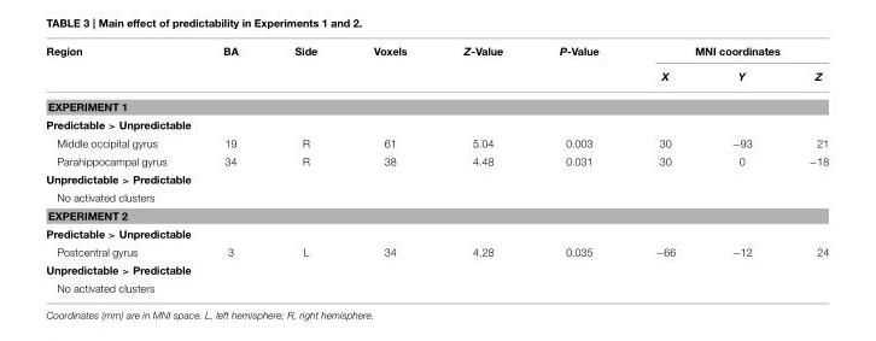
<table><thead><tr><td rowspan="2">Region</td><td rowspan="2">BA</td><td rowspan="2">Side</td><td rowspan="2">Voxels</td><td rowspan="2">Z-Value</td><td rowspan="2">P-Value</td><td colspan="3">MNI coordinates</td></tr><tr><td>X</td><td>Y</td><td>Z</td></tr></thead><tbody><tr><td colspan="9">EXPERIMENT 1</td></tr><tr><td colspan="9">Predictable &gt; Unpredictable</td></tr><tr><td>Middle occipital gyrus</td><td>19</td><td>R</td><td>61</td><td>5.04</td><td>0.003</td><td>30</td><td>−93</td><td>21</td></tr><tr><td>Parahippocampal gyrus</td><td>34</td><td>R</td><td>38</td><td>4.48</td><td>0.031</td><td>30</td><td>0</td><td>−18</td></tr><tr><td colspan="9">Unpredictable &gt; Predictable</td></tr><tr><td colspan="9">No activated clusters</td></tr><tr><td colspan="9">EXPERIMENT 2</td></tr><tr><td colspan="9">Predictable &gt; Unpredictable</td></tr><tr><td>Postcentral gyrus</td><td>3</td><td>L</td><td>34</td><td>4.28</td><td>0.035</td><td>−66</td><td>−12</td><td>24</td></tr><tr><td colspan="9">Unpredictable &gt; Predictable</td></tr><tr><td>No activated clusters</td><td></td><td></td><td></td><td></td><td></td><td></td><td></td><td></td></tr></tbody></table>